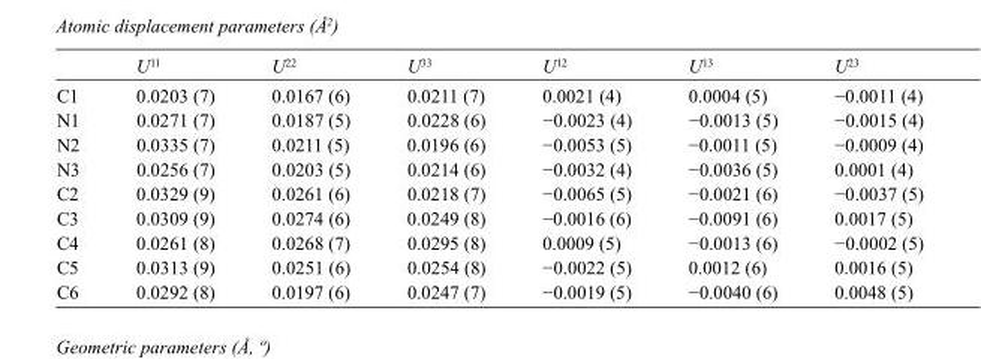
<table><thead><tr><td></td><td>U<sup>11</sup></td><td>U<sup>22</sup></td><td>U<sup>33</sup></td><td>U<sup>12</sup></td><td>U<sup>13</sup></td><td>U<sup>23</sup></td></tr></thead><tbody><tr><td>C1</td><td>0.0203 (7)</td><td>0.0167 (6)</td><td>0.0211 (7)</td><td>0.0021 (4)</td><td>0.0004 (5)</td><td>−0.0011 (4)</td></tr><tr><td>N1</td><td>0.0271 (7)</td><td>0.0187 (5)</td><td>0.0228 (6)</td><td>−0.0023 (4)</td><td>−0.0013 (5)</td><td>−0.0015 (4)</td></tr><tr><td>N2</td><td>0.0335 (7)</td><td>0.0211 (5)</td><td>0.0196 (6)</td><td>−0.0053 (5)</td><td>−0.0011 (5)</td><td>−0.0009 (4)</td></tr><tr><td>N3</td><td>0.0256 (7)</td><td>0.0203 (5)</td><td>0.0214 (6)</td><td>−0.0032 (4)</td><td>−0.0036 (5)</td><td>0.0001 (4)</td></tr><tr><td>C2</td><td>0.0329 (9)</td><td>0.0261 (6)</td><td>0.0218 (7)</td><td>−0.0065 (5)</td><td>−0.0021 (6)</td><td>−0.0037 (5)</td></tr><tr><td>C3</td><td>0.0309 (9)</td><td>0.0274 (6)</td><td>0.0249 (8)</td><td>−0.0016 (6)</td><td>−0.0091 (6)</td><td>0.0017 (5)</td></tr><tr><td>C4</td><td>0.0261 (8)</td><td>0.0268 (7)</td><td>0.0295 (8)</td><td>0.0009 (5)</td><td>−0.0013 (6)</td><td>−0.0002 (5)</td></tr><tr><td>C5</td><td>0.0313 (9)</td><td>0.0251 (6)</td><td>0.0254 (8)</td><td>−0.0022 (5)</td><td>0.0012 (6)</td><td>0.0016 (5)</td></tr><tr><td>C6</td><td>0.0292 (8)</td><td>0.0197 (6)</td><td>0.0247 (7)</td><td>−0.0019 (5)</td><td>−0.0040 (6)</td><td>0.0048 (5)</td></tr></tbody></table>